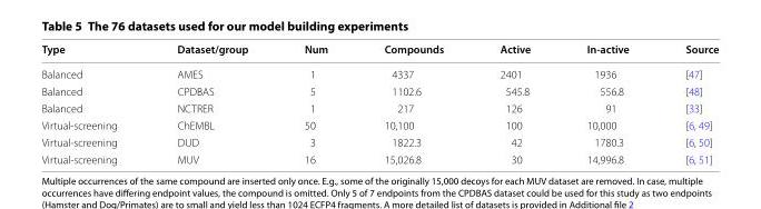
<table><thead><tr><td>Type</td><td>Dataset/group</td><td>Num</td><td>Compounds</td><td>Active</td><td>In-active</td><td>Source</td></tr></thead><tbody><tr><td>Balanced</td><td>AMES</td><td>1</td><td>4337</td><td>2401</td><td>1936</td><td>[47]</td></tr><tr><td>Balanced</td><td>CPDBAS</td><td>5</td><td>1102.6</td><td>545.8</td><td>556.8</td><td>[48]</td></tr><tr><td>Balanced</td><td>NCTRER</td><td>1</td><td>217</td><td>126</td><td>91</td><td>[33]</td></tr><tr><td>Virtual-screening</td><td>ChEMBL</td><td>50</td><td>10,100</td><td>100</td><td>10,000</td><td>[6, 49]</td></tr><tr><td>Virtual-screening</td><td>DUD</td><td>3</td><td>1822.3</td><td>42</td><td>1780.3</td><td>[6, 50]</td></tr><tr><td>Virtual-screening</td><td>MUV</td><td>16</td><td>15,026.8</td><td>30</td><td>14,996.8</td><td>[6, 51]</td></tr></tbody></table>